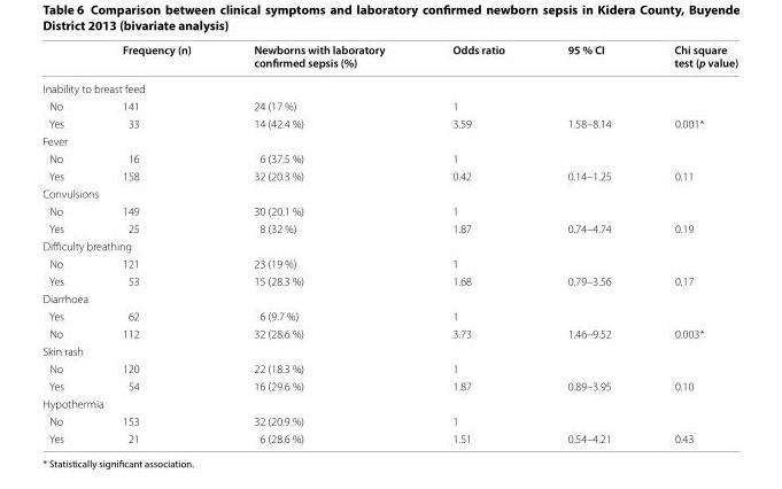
<table><thead><tr><td></td><td>Frequency (n)</td><td>Newborns with laboratory confirmed sepsis (%)</td><td>Odds ratio</td><td>95 % CI</td><td>Chi square test (p value)</td></tr></thead><tbody><tr><td colspan="6">Inability to breast feed</td></tr><tr><td>No</td><td>141</td><td>24 (17 %)</td><td>1</td><td></td><td></td></tr><tr><td>Yes</td><td>33</td><td>14 (42.4 %)</td><td>3.59</td><td>1.58–8.14</td><td>0.001*</td></tr><tr><td colspan="6">Fever</td></tr><tr><td>No</td><td>16</td><td>6 (37.5 %)</td><td>1</td><td></td><td></td></tr><tr><td>Yes</td><td>158</td><td>32 (20.3 %)</td><td>0.42</td><td>0.14–1.25</td><td>0.11</td></tr><tr><td colspan="6">Convulsions</td></tr><tr><td>No</td><td>149</td><td>30 (20.1 %)</td><td>1</td><td></td><td></td></tr><tr><td>Yes</td><td>25</td><td>8 (32 %)</td><td>1.87</td><td>0.74–4.74</td><td>0.19</td></tr><tr><td colspan="6">Difficulty breathing</td></tr><tr><td>No</td><td>121</td><td>23 (19 %)</td><td>1</td><td></td><td></td></tr><tr><td>Yes</td><td>53</td><td>15 (28.3 %)</td><td>1.68</td><td>0.79–3.56</td><td>0.17</td></tr><tr><td colspan="6">Diarrhoea</td></tr><tr><td>Yes</td><td>62</td><td>6 (9.7 %)</td><td>1</td><td></td><td></td></tr><tr><td>No</td><td>112</td><td>32 (28.6 %)</td><td>3.73</td><td>1.46–9.52</td><td>0.003*</td></tr><tr><td colspan="6">Skin rash</td></tr><tr><td>No</td><td>120</td><td>22 (18.3 %)</td><td>1</td><td></td><td></td></tr><tr><td>Yes</td><td>54</td><td>16 (29.6 %)</td><td>1.87</td><td>0.89–3.95</td><td>0.10</td></tr><tr><td colspan="6">Hypothermia</td></tr><tr><td>No</td><td>153</td><td>32 (20.9 %)</td><td>1</td><td></td><td></td></tr><tr><td>Yes</td><td>21</td><td>6 (28.6 %)</td><td>1.51</td><td>0.54–4.21</td><td>0.43</td></tr></tbody></table>